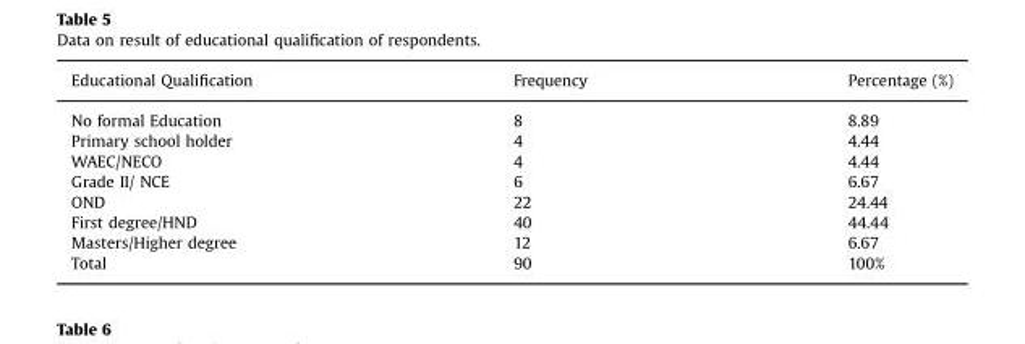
<table><thead><tr><td>Educational Qualification</td><td>Frequency</td><td>Percentage (%)</td></tr></thead><tbody><tr><td>No formal Education</td><td>8</td><td>8.89</td></tr><tr><td>Primary school holder</td><td>4</td><td>4.44</td></tr><tr><td>WAEC/NECO</td><td>4</td><td>4.44</td></tr><tr><td>Grade II/ NCE</td><td>6</td><td>6.67</td></tr><tr><td>OND</td><td>22</td><td>24.44</td></tr><tr><td>First degree/HND</td><td>40</td><td>44.44</td></tr><tr><td>Masters/Higher degree</td><td>12</td><td>6.67</td></tr><tr><td>Total</td><td>90</td><td>100%</td></tr></tbody></table>